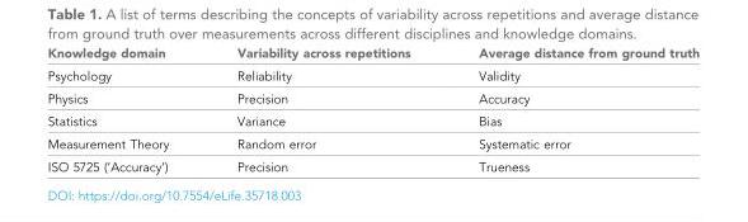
<table><thead><tr><td>Knowledge domain</td><td>Variability across repetitions</td><td>Average distance from ground truth</td></tr></thead><tbody><tr><td>Psychology</td><td>Reliability</td><td>Validity</td></tr><tr><td>Physics</td><td>Precision</td><td>Accuracy</td></tr><tr><td>Statistics</td><td>Variance</td><td>Bias</td></tr><tr><td>Measurement Theory</td><td>Random error</td><td>Systematic error</td></tr><tr><td>ISO 5725 (‘Accuracy’)</td><td>Precision</td><td>Trueness</td></tr></tbody></table>